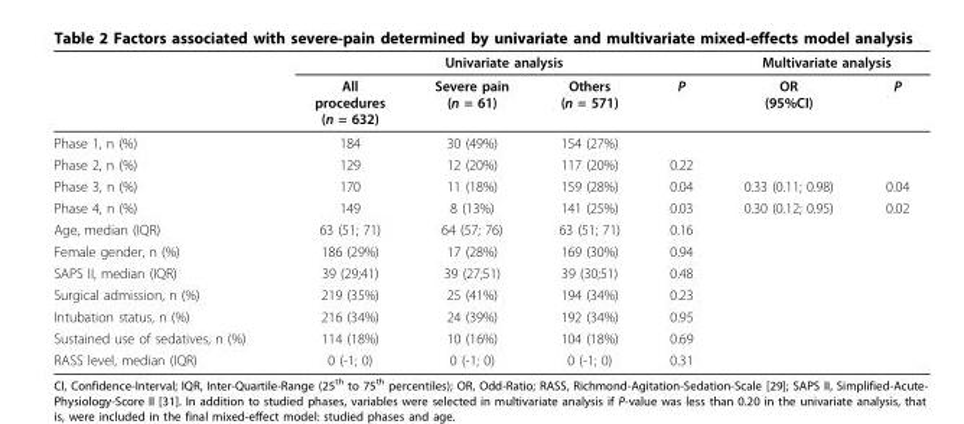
<table><thead><tr><td rowspan="2"></td><td colspan="4">Univariate analysis</td><td colspan="2">Multivariate analysis</td></tr><tr><td>All procedures (n = 632)</td><td>Severe pain (n = 61)</td><td>Others (n = 571)</td><td>P</td><td>OR (95%CI)</td><td>P</td></tr></thead><tbody><tr><td>Phase 1, n (%)</td><td>184</td><td>30 (49%)</td><td>154 (27%)</td><td></td><td></td><td></td></tr><tr><td>Phase 2, n (%)</td><td>129</td><td>12 (20%)</td><td>117 (20%)</td><td>0.22</td><td></td><td></td></tr><tr><td>Phase 3, n (%)</td><td>170</td><td>11 (18%)</td><td>159 (28%)</td><td>0.04</td><td>0.33 (0.11; 0.98)</td><td>0.04</td></tr><tr><td>Phase 4, n (%)</td><td>149</td><td>8 (13%)</td><td>141 (25%)</td><td>0.03</td><td>0.30 (0.12; 0.95)</td><td>0.02</td></tr><tr><td>Age, median (IQR)</td><td>63 (51; 71)</td><td>64 (57; 76)</td><td>63 (51; 71)</td><td>0.16</td><td></td><td></td></tr><tr><td>Female gender, n (%)</td><td>186 (29%)</td><td>17 (28%)</td><td>169 (30%)</td><td>0.94</td><td></td><td></td></tr><tr><td>SAPS II, median (IQR)</td><td>39 (29;41)</td><td>39 (27;51)</td><td>39 (30;51)</td><td>0.48</td><td></td><td></td></tr><tr><td>Surgical admission, n (%)</td><td>219 (35%)</td><td>25 (41%)</td><td>194 (34%)</td><td>0.23</td><td></td><td></td></tr><tr><td>Intubation status, n (%)</td><td>216 (34%)</td><td>24 (39%)</td><td>192 (34%)</td><td>0.95</td><td></td><td></td></tr><tr><td>Sustained use of sedatives, n (%)</td><td>114 (18%)</td><td>10 (16%)</td><td>104 (18%)</td><td>0.69</td><td></td><td></td></tr><tr><td>RASS level, median (IQR)</td><td>0 (-1; 0)</td><td>0 (-1; 0)</td><td>0 (-1; 0)</td><td>0.31</td><td></td><td></td></tr></tbody></table>